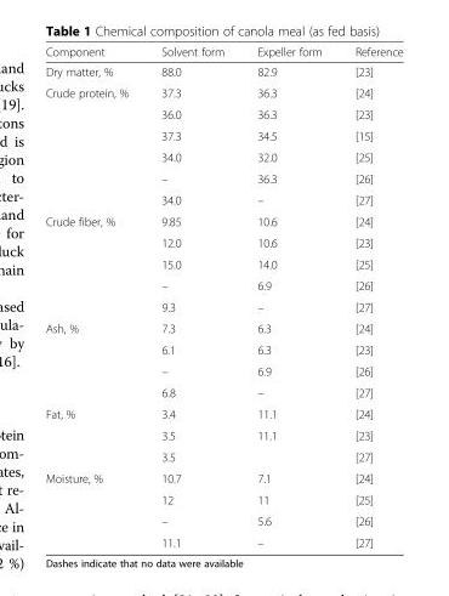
<table><thead><tr><td>Component</td><td>Solvent form</td><td>Expeller form</td><td>Reference</td></tr></thead><tbody><tr><td>Dry matter, %</td><td>88.0</td><td>82.9</td><td>[23]</td></tr><tr><td rowspan="6">Crude protein, %</td><td>37.3</td><td>36.3</td><td>[24]</td></tr><tr><td>36.0</td><td>36.3</td><td>[23]</td></tr><tr><td>37.3</td><td>34.5</td><td>[15]</td></tr><tr><td>34.0</td><td>32.0</td><td>[25]</td></tr><tr><td>–</td><td>36.3</td><td>[26]</td></tr><tr><td>34.0</td><td>–</td><td>[27]</td></tr><tr><td rowspan="5">Crude fiber, %</td><td>9.85</td><td>10.6</td><td>[24]</td></tr><tr><td>12.0</td><td>10.6</td><td>[23]</td></tr><tr><td>15.0</td><td>14.0</td><td>[25]</td></tr><tr><td>–</td><td>6.9</td><td>[26]</td></tr><tr><td>9.3</td><td>–</td><td>[27]</td></tr><tr><td rowspan="4">Ash, %</td><td>7.3</td><td>6.3</td><td>[24]</td></tr><tr><td>6.1</td><td>6.3</td><td>[23]</td></tr><tr><td>–</td><td>6.9</td><td>[26]</td></tr><tr><td>6.8</td><td>–</td><td>[27]</td></tr><tr><td rowspan="3">Fat, %</td><td>3.4</td><td>11.1</td><td>[24]</td></tr><tr><td>3.5</td><td>11.1</td><td>[23]</td></tr><tr><td>3.5</td><td></td><td>[27]</td></tr><tr><td rowspan="4">Moisture, %</td><td>10.7</td><td>7.1</td><td>[24]</td></tr><tr><td>12</td><td>11</td><td>[25]</td></tr><tr><td>–</td><td>5.6</td><td>[26]</td></tr><tr><td>11.1</td><td>–</td><td>[27]</td></tr></tbody></table>